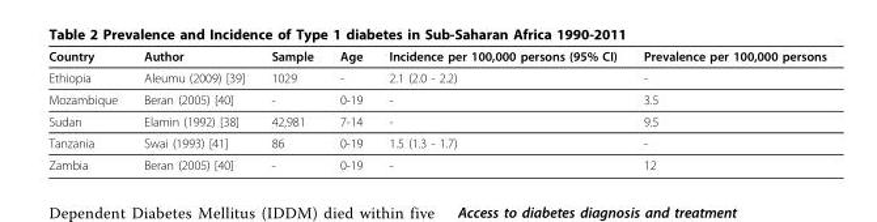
<table><thead><tr><td>Country</td><td>Author</td><td>Sample</td><td>Age</td><td>Incidence per 100,000 persons (95% CI)</td><td>Prevalence per 100,000 persons</td></tr></thead><tbody><tr><td>Ethiopia</td><td>Aleumu (2009) [39]</td><td>1029</td><td>-</td><td>2.1 (2.0 - 2.2)</td><td>-</td></tr><tr><td>Mozambique</td><td>Beran (2005) [40]</td><td>-</td><td>0-19</td><td>-</td><td>3.5</td></tr><tr><td>Sudan</td><td>Elamin (1992) [38]</td><td>42,981</td><td>7-14</td><td>-</td><td>9.5</td></tr><tr><td>Tanzania</td><td>Swai (1993) [41]</td><td>86</td><td>0-19</td><td>1.5 (1.3 - 1.7)</td><td>-</td></tr><tr><td>Zambia</td><td>Beran (2005) [40]</td><td>-</td><td>0-19</td><td>-</td><td>12</td></tr></tbody></table>